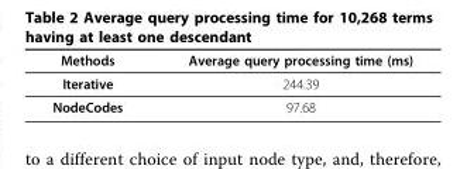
<table><thead><tr><td>Methods</td><td>Average query processing time (ms)</td></tr></thead><tbody><tr><td>Iterative</td><td>244.39</td></tr><tr><td>NodeCodes</td><td>97.68</td></tr></tbody></table>